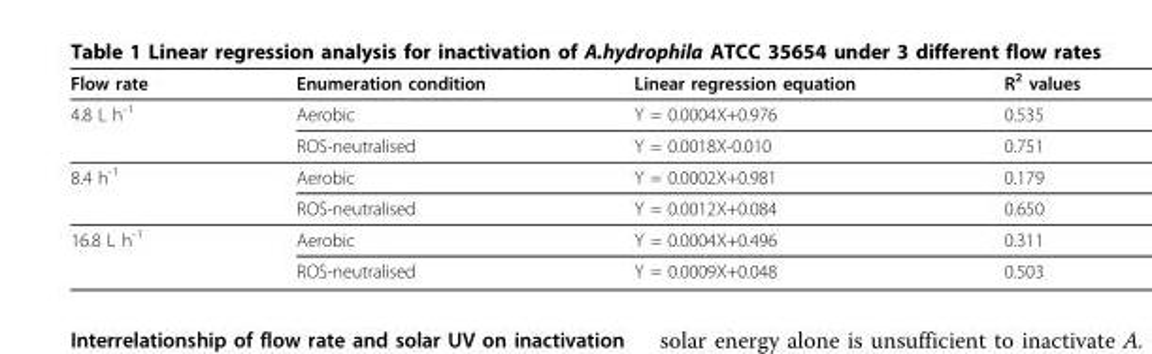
<table><thead><tr><td>Flow rate</td><td>Enumeration condition</td><td>Linear regression equation</td><td>R<sup>2</sup> values</td></tr></thead><tbody><tr><td rowspan="2">4.8 L h<sup>-1</sup></td><td>Aerobic</td><td>Y = 0.0004X+0.976</td><td>0.535</td></tr><tr><td>ROS-neutralised</td><td>Y = 0.0018X-0.010</td><td>0.751</td></tr><tr><td rowspan="2">8.4 h<sup>-1</sup></td><td>Aerobic</td><td>Y = 0.0002X+0.981</td><td>0.179</td></tr><tr><td>ROS-neutralised</td><td>Y = 0.0012X+0.084</td><td>0.650</td></tr><tr><td rowspan="2">16.8 L h<sup>-1</sup></td><td>Aerobic</td><td>Y = 0.0004X+0.496</td><td>0.311</td></tr><tr><td>ROS-neutralised</td><td>Y = 0.0009X+0.048</td><td>0.503</td></tr></tbody></table>